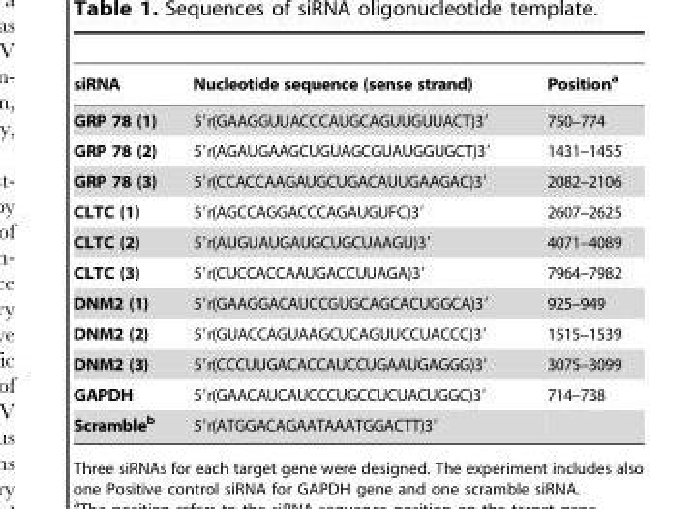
<table><thead><tr><td>siRNA</td><td>Nucleotide sequence (sense strand)</td><td>Position<sup>a</sup></td></tr></thead><tbody><tr><td>GRP 78 (1)</td><td>5′r(GAAGGUUACCCAUGCAGUUGUUACT)3′</td><td>750–774</td></tr><tr><td>GRP 78 (2)</td><td>5′r(AGAUGAAGCUGUAGCGUAUGGUGCT)3′</td><td>1431–1455</td></tr><tr><td>GRP 78 (3)</td><td>5′r(CCACCAAGAUGCUGACAUUGAAGAC)3′</td><td>2082–2106</td></tr><tr><td>CLTC (1)</td><td>5′r(AGCCAGGACCCAGAUGUFC)3′</td><td>2607–2625</td></tr><tr><td>CLTC (2)</td><td>5′r(AUGUAUGAUGCUGCUAAGU)3′</td><td>4071–4089</td></tr><tr><td>CLTC (3)</td><td>5′r(CUCCACCAAUGACCUUAGA)3′</td><td>7964–7982</td></tr><tr><td>DNM2 (1)</td><td>5′r(GAAGGACAUCCGUGCAGCACUGGCA)3′</td><td>925–949</td></tr><tr><td>DNM2 (2)</td><td>5′r(GUACCAGUAAGCUCAGUUCCUACCC)3′</td><td>1515–1539</td></tr><tr><td>DNM2 (3)</td><td>5′r(CCCUUGACACCAUCCUGAAUGAGGG)3′</td><td>3075–3099</td></tr><tr><td>GAPDH</td><td>5′r(GAACAUCAUCCCUGCCUCUACUGGC)3′</td><td>714–738</td></tr><tr><td>Scrambleb</td><td>5′r(ATGGACAGAATAAATGGACTT)3′</td><td></td></tr></tbody></table>